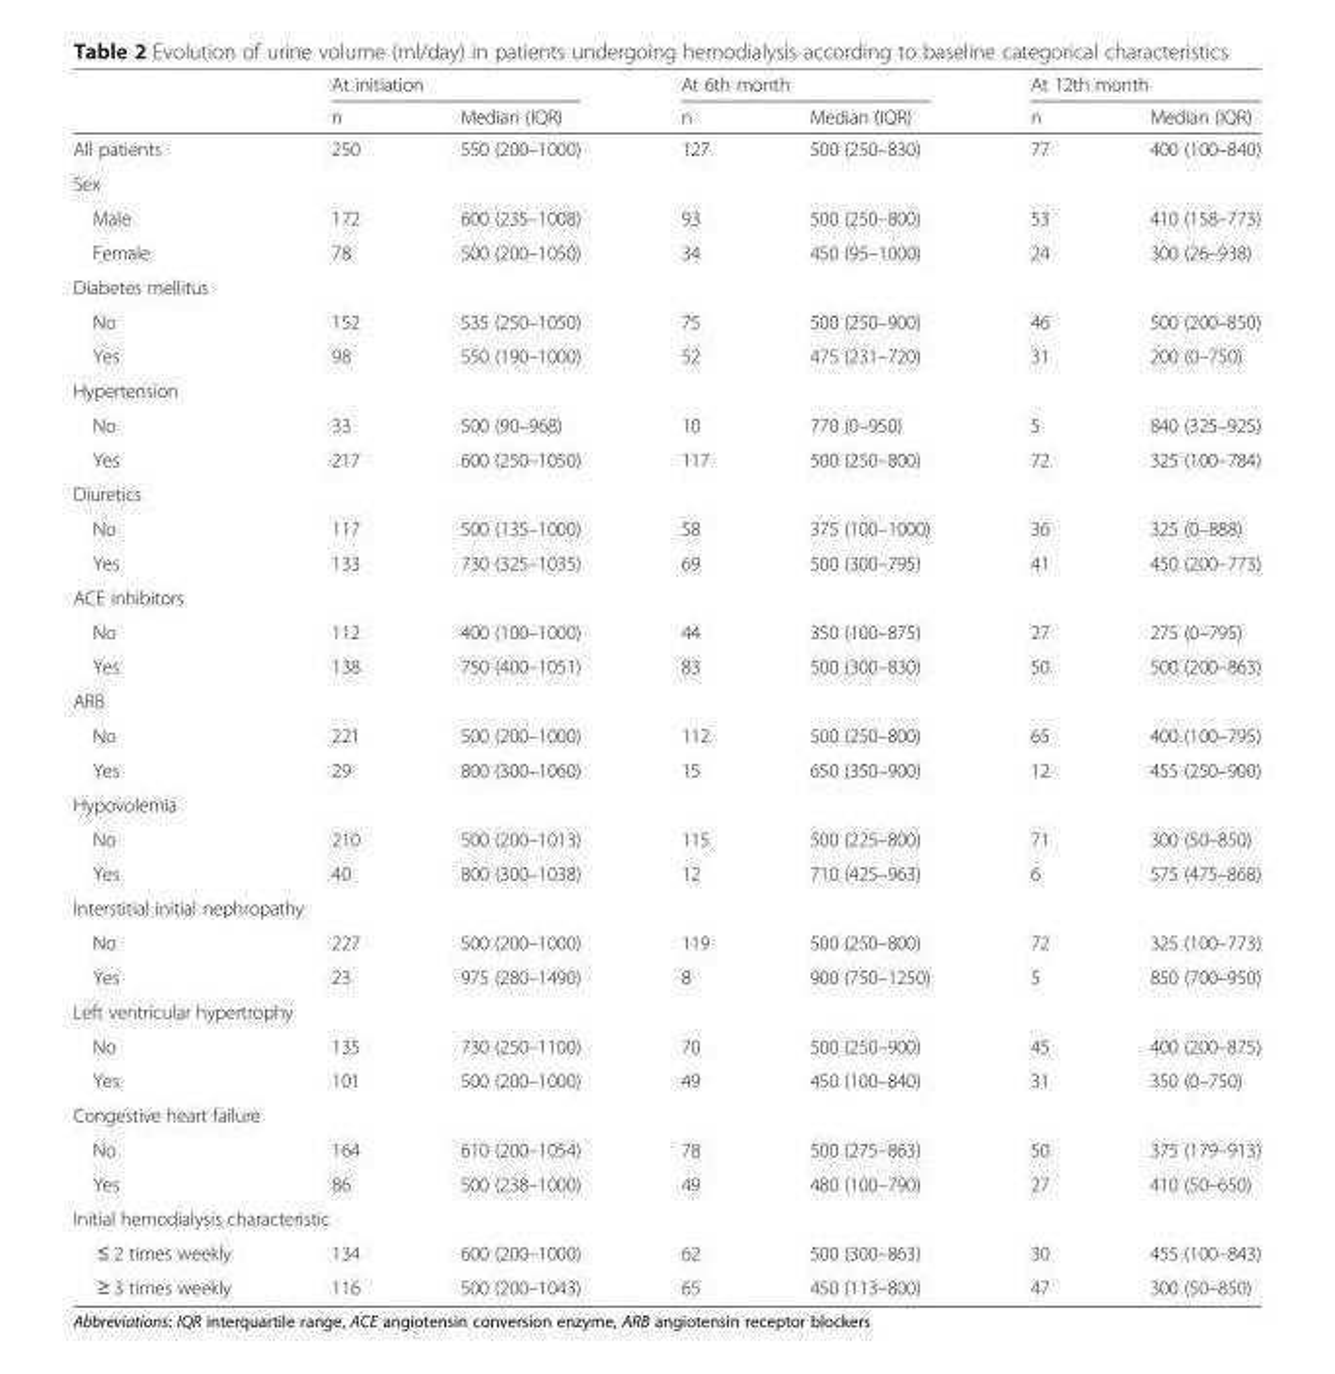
<table><thead><tr><td rowspan="2"></td><td colspan="2">At initiation</td><td colspan="2">At 6th month</td><td colspan="2">At 12th month</td></tr><tr><td>n</td><td>Median (IQR)</td><td>n</td><td>Median (IQR)</td><td>n</td><td>Median (IQR)</td></tr></thead><tbody><tr><td>All patients</td><td>250</td><td>550 (200–1000)</td><td>127</td><td>500 (250–830)</td><td>77</td><td>400 (100–840)</td></tr><tr><td colspan="7">Sex</td></tr><tr><td>Male</td><td>172</td><td>600 (235–1008)</td><td>93</td><td>500 (250–800)</td><td>53</td><td>410 (158–773)</td></tr><tr><td>Female</td><td>78</td><td>500 (200–1050)</td><td>34</td><td>450 (95–1000)</td><td>24</td><td>300 (26–938)</td></tr><tr><td colspan="7">Diabetes mellitus</td></tr><tr><td>No</td><td>152</td><td>535 (250–1050)</td><td>75</td><td>500 (250–900)</td><td>46</td><td>500 (200–850)</td></tr><tr><td>Yes</td><td>98</td><td>550 (190–1000)</td><td>52</td><td>475 (231–720)</td><td>31</td><td>200 (0–750)</td></tr><tr><td colspan="7">Hypertension</td></tr><tr><td>No</td><td>33</td><td>500 (90–968)</td><td>10</td><td>770 (0–950)</td><td>5</td><td>840 (325–925)</td></tr><tr><td>Yes</td><td>217</td><td>600 (250–1050)</td><td>117</td><td>500 (250–800)</td><td>72</td><td>325 (100–784)</td></tr><tr><td colspan="7">Diuretics</td></tr><tr><td>No</td><td>117</td><td>500 (135–1000)</td><td>58</td><td>375 (100–1000)</td><td>36</td><td>325 (0–888)</td></tr><tr><td>Yes</td><td>133</td><td>730 (325–1035)</td><td>69</td><td>500 (300–795)</td><td>41</td><td>450 (200–773)</td></tr><tr><td colspan="7">ACE inhibitors</td></tr><tr><td>No</td><td>112</td><td>400 (100–1000)</td><td>44</td><td>350 (100–875)</td><td>27</td><td>275 (0–795)</td></tr><tr><td>Yes</td><td>138</td><td>750 (400–1051)</td><td>83</td><td>500 (300–830)</td><td>50</td><td>500 (200–863)</td></tr><tr><td colspan="7">ARB</td></tr><tr><td>No</td><td>221</td><td>500 (200–1000)</td><td>112</td><td>500 (250–800)</td><td>65</td><td>400 (100–795)</td></tr><tr><td>Yes</td><td>29</td><td>800 (300–1060)</td><td>15</td><td>650 (350–900)</td><td>12</td><td>455 (250–900)</td></tr><tr><td colspan="7">Hypovolemia</td></tr><tr><td>No</td><td>210</td><td>500 (200–1013)</td><td>115</td><td>500 (225–800)</td><td>71</td><td>300 (50–850)</td></tr><tr><td>Yes</td><td>40</td><td>800 (300–1038)</td><td>12</td><td>710 (425–963)</td><td>6</td><td>575 (475–868)</td></tr><tr><td colspan="7">Interstitial initial nephropathy</td></tr><tr><td>No</td><td>227</td><td>500 (200–1000)</td><td>119</td><td>500 (250–800)</td><td>72</td><td>325 (100–773)</td></tr><tr><td>Yes</td><td>23</td><td>975 (280–1490)</td><td>8</td><td>900 (750–1250)</td><td>5</td><td>850 (700–950)</td></tr><tr><td colspan="7">Left ventricular hypertrophy</td></tr><tr><td>No</td><td>135</td><td>730 (250–1100)</td><td>70</td><td>500 (250–900)</td><td>45</td><td>400 (200–875)</td></tr><tr><td>Yes</td><td>101</td><td>500 (200–1000)</td><td>49</td><td>450 (100–840)</td><td>31</td><td>350 (0–750)</td></tr><tr><td colspan="7">Congestive heart failure</td></tr><tr><td>No</td><td>164</td><td>610 (200–1054)</td><td>78</td><td>500 (275–863)</td><td>50</td><td>375 (179–913)</td></tr><tr><td>Yes</td><td>86</td><td>500 (238–1000)</td><td>49</td><td>480 (100–790)</td><td>27</td><td>410 (50–650)</td></tr><tr><td colspan="7">Initial hemodialysis characteristic</td></tr><tr><td>≤ 2 times weekly</td><td>134</td><td>600 (200–1000)</td><td>62</td><td>500 (300–863)</td><td>30</td><td>455 (100–843)</td></tr><tr><td>≥ 3 times weekly</td><td>116</td><td>500 (200–1043)</td><td>65</td><td>450 (113–800)</td><td>47</td><td>300 (50–850)</td></tr></tbody></table>